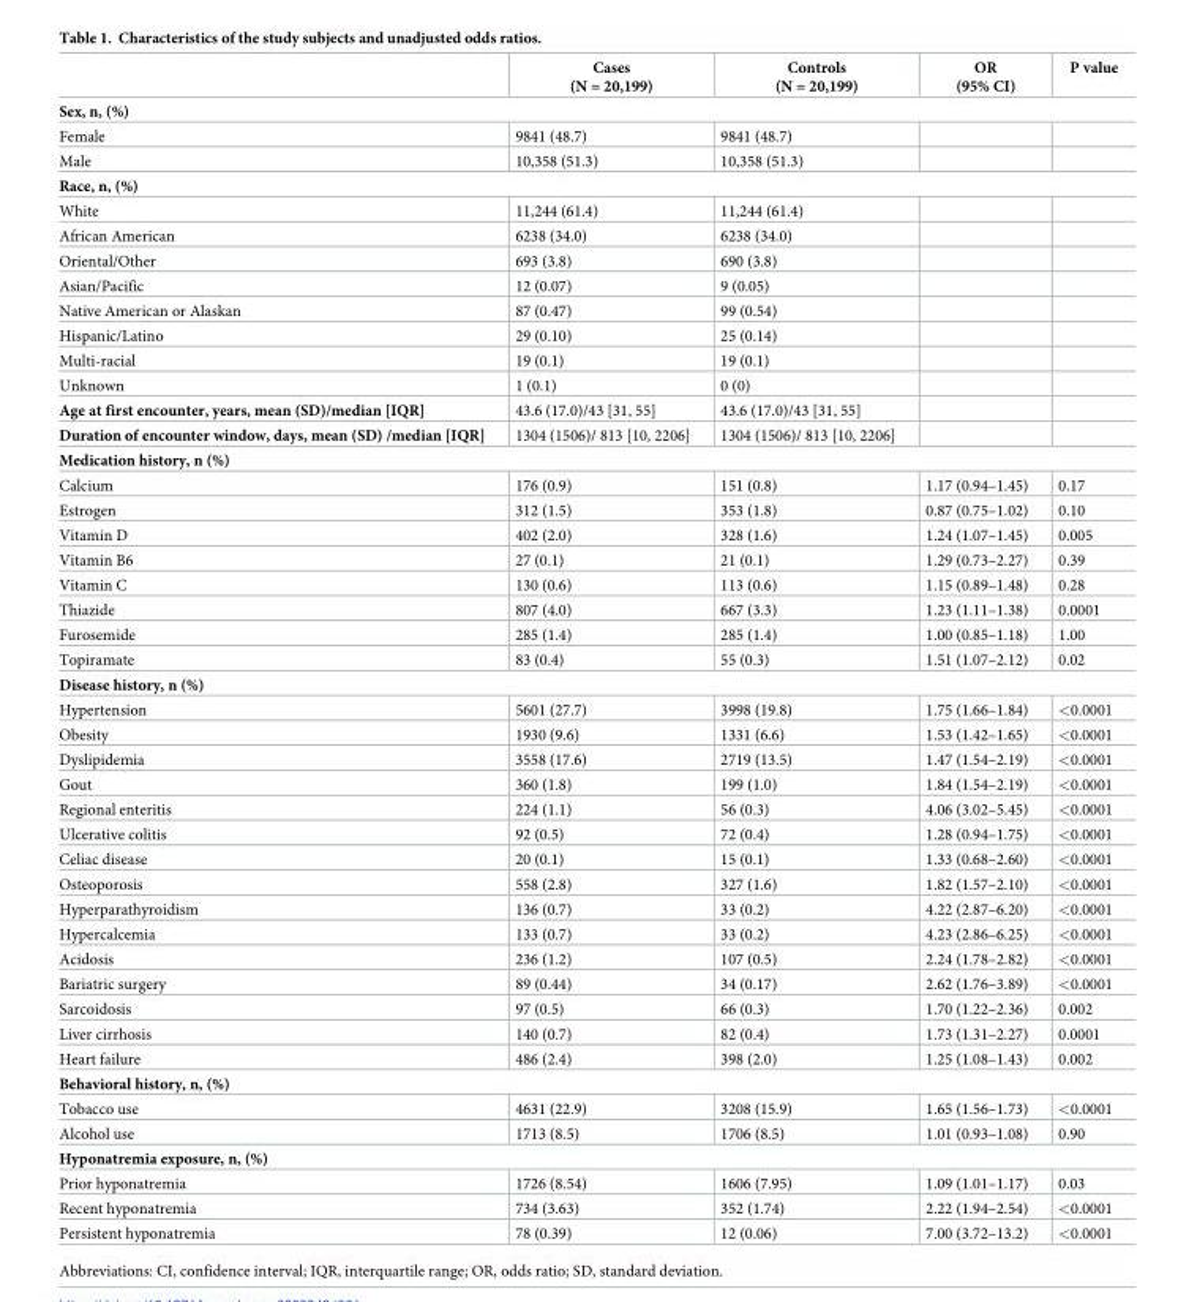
<table><thead><tr><td></td><td>Cases (N = 20,199)</td><td>Controls (N = 20,199)</td><td>OR (95% CI)</td><td>P value</td></tr></thead><tbody><tr><td colspan="5">Sex, n, (%)</td></tr><tr><td>Female</td><td>9841 (48.7)</td><td>9841 (48.7)</td><td></td><td></td></tr><tr><td>Male</td><td>10,358 (51.3)</td><td>10,358 (51.3)</td><td></td><td></td></tr><tr><td colspan="5">Race, n, (%)</td></tr><tr><td>White</td><td>11,244 (61.4)</td><td>11,244 (61.4)</td><td></td><td></td></tr><tr><td>African American</td><td>6238 (34.0)</td><td>6238 (34.0)</td><td></td><td></td></tr><tr><td>Oriental/Other</td><td>693 (3.8)</td><td>690 (3.8)</td><td></td><td></td></tr><tr><td>Asian/Pacific</td><td>12 (0.07)</td><td>9 (0.05)</td><td></td><td></td></tr><tr><td>Native American or Alaskan</td><td>87 (0.47)</td><td>99 (0.54)</td><td></td><td></td></tr><tr><td>Hispanic/Latino</td><td>29 (0.10)</td><td>25 (0.14)</td><td></td><td></td></tr><tr><td>Multi-racial</td><td>19 (0.1)</td><td>19 (0.1)</td><td></td><td></td></tr><tr><td>Unknown</td><td>1 (0.1)</td><td>0 (0)</td><td></td><td></td></tr><tr><td>Age at first encounter, years, mean (SD)/median [IQR]</td><td>43.6 (17.0)/43 [31, 55]</td><td>43.6 (17.0)/43 [31, 55]</td><td></td><td></td></tr><tr><td>Duration of encounter window, days, mean (SD) /median [IQR]</td><td>1304 (1506)/ 813 [10, 2206]</td><td>1304 (1506)/ 813 [10, 2206]</td><td></td><td></td></tr><tr><td colspan="5">Medication history, n (%)</td></tr><tr><td>Calcium</td><td>176 (0.9)</td><td>151 (0.8)</td><td>1.17 (0.94–1.45)</td><td>0.17</td></tr><tr><td>Estrogen</td><td>312 (1.5)</td><td>353 (1.8)</td><td>0.87 (0.75–1.02)</td><td>0.10</td></tr><tr><td>Vitamin D</td><td>402 (2.0)</td><td>328 (1.6)</td><td>1.24 (1.07–1.45)</td><td>0.005</td></tr><tr><td>Vitamin B6</td><td>27 (0.1)</td><td>21 (0.1)</td><td>1.29 (0.73–2.27)</td><td>0.39</td></tr><tr><td>Vitamin C</td><td>130 (0.6)</td><td>113 (0.6)</td><td>1.15 (0.89–1.48)</td><td>0.28</td></tr><tr><td>Thiazide</td><td>807 (4.0)</td><td>667 (3.3)</td><td>1.23 (1.11–1.38)</td><td>0.0001</td></tr><tr><td>Furosemide</td><td>285 (1.4)</td><td>285 (1.4)</td><td>1.00 (0.85–1.18)</td><td>1.00</td></tr><tr><td>Topiramate</td><td>83 (0.4)</td><td>55 (0.3)</td><td>1.51 (1.07–2.12)</td><td>0.02</td></tr><tr><td colspan="5">Disease history, n (%)</td></tr><tr><td>Hypertension</td><td>5601 (27.7)</td><td>3998 (19.8)</td><td>1.75 (1.66–1.84)</td><td>&lt;0.0001</td></tr><tr><td>Obesity</td><td>1930 (9.6)</td><td>1331 (6.6)</td><td>1.53 (1.42–1.65)</td><td>&lt;0.0001</td></tr><tr><td>Dyslipidemia</td><td>3558 (17.6)</td><td>2719 (13.5)</td><td>1.47 (1.54–2.19)</td><td>&lt;0.0001</td></tr><tr><td>Gout</td><td>360 (1.8)</td><td>199 (1.0)</td><td>1.84 (1.54–2.19)</td><td>&lt;0.0001</td></tr><tr><td>Regional enteritis</td><td>224 (1.1)</td><td>56 (0.3)</td><td>4.06 (3.02–5.45)</td><td>&lt;0.0001</td></tr><tr><td>Ulcerative colitis</td><td>92 (0.5)</td><td>72 (0.4)</td><td>1.28 (0.94–1.75)</td><td>&lt;0.0001</td></tr><tr><td>Celiac disease</td><td>20 (0.1)</td><td>15 (0.1)</td><td>1.33 (0.68–2.60)</td><td>&lt;0.0001</td></tr><tr><td>Osteoporosis</td><td>558 (2.8)</td><td>327 (1.6)</td><td>1.82 (1.57–2.10)</td><td>&lt;0.0001</td></tr><tr><td>Hyperparathyroidism</td><td>136 (0.7)</td><td>33 (0.2)</td><td>4.22 (2.87–6.20)</td><td>&lt;0.0001</td></tr><tr><td>Hypercalcemia</td><td>133 (0.7)</td><td>33 (0.2)</td><td>4.23 (2.86–6.25)</td><td>&lt;0.0001</td></tr><tr><td>Acidosis</td><td>236 (1.2)</td><td>107 (0.5)</td><td>2.24 (1.78–2.82)</td><td>&lt;0.0001</td></tr><tr><td>Bariatric surgery</td><td>89 (0.44)</td><td>34 (0.17)</td><td>2.62 (1.76–3.89)</td><td>&lt;0.0001</td></tr><tr><td>Sarcoidosis</td><td>97 (0.5)</td><td>66 (0.3)</td><td>1.70 (1.22–2.36)</td><td>0.002</td></tr><tr><td>Liver cirrhosis</td><td>140 (0.7)</td><td>82 (0.4)</td><td>1.73 (1.31–2.27)</td><td>0.0001</td></tr><tr><td>Heart failure</td><td>486 (2.4)</td><td>398 (2.0)</td><td>1.25 (1.08–1.43)</td><td>0.002</td></tr><tr><td colspan="5">Behavioral history, n, (%)</td></tr><tr><td>Tobacco use</td><td>4631 (22.9)</td><td>3208 (15.9)</td><td>1.65 (1.56–1.73)</td><td>&lt;0.0001</td></tr><tr><td>Alcohol use</td><td>1713 (8.5)</td><td>1706 (8.5)</td><td>1.01 (0.93–1.08)</td><td>0.90</td></tr><tr><td colspan="5">Hyponatremia exposure, n, (%)</td></tr><tr><td>Prior hyponatremia</td><td>1726 (8.54)</td><td>1606 (7.95)</td><td>1.09 (1.01–1.17)</td><td>0.03</td></tr><tr><td>Recent hyponatremia</td><td>734 (3.63)</td><td>352 (1.74)</td><td>2.22 (1.94–2.54)</td><td>&lt;0.0001</td></tr><tr><td>Persistent hyponatremia</td><td>78 (0.39)</td><td>12 (0.06)</td><td>7.00 (3.72–13.2)</td><td>&lt;0.0001</td></tr></tbody></table>